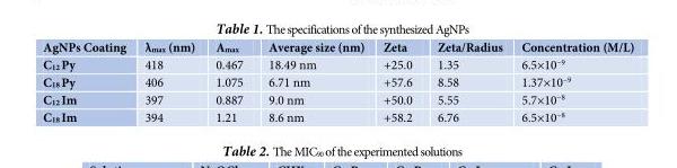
<table><thead><tr><td>AgNPs Coating</td><td>λ<sub>max</sub> (nm)</td><td>A<sub>max</sub></td><td>Average size (nm)</td><td>Zeta</td><td>Zeta/Radius</td><td>Concentration (M/L)</td></tr></thead><tbody><tr><td>C<sub>12</sub> Py</td><td>418</td><td>0.467</td><td>18.49 nm</td><td>+25.0</td><td>1.35</td><td>6.5×10<sup>−9</sup></td></tr><tr><td>C<sub>18</sub> Py</td><td>406</td><td>1.075</td><td>6.71 nm</td><td>+57.6</td><td>8.58</td><td>1.37×10<sup>−9</sup></td></tr><tr><td>C<sub>12</sub> Im</td><td>397</td><td>0.887</td><td>9.0 nm</td><td>+50.0</td><td>5.55</td><td>5.7×10<sup>−8</sup></td></tr><tr><td>C<sub>18</sub> Im</td><td>394</td><td>1.21</td><td>8.6 nm</td><td>+58.2</td><td>6.76</td><td>6.5×10<sup>−8</sup></td></tr></tbody></table>